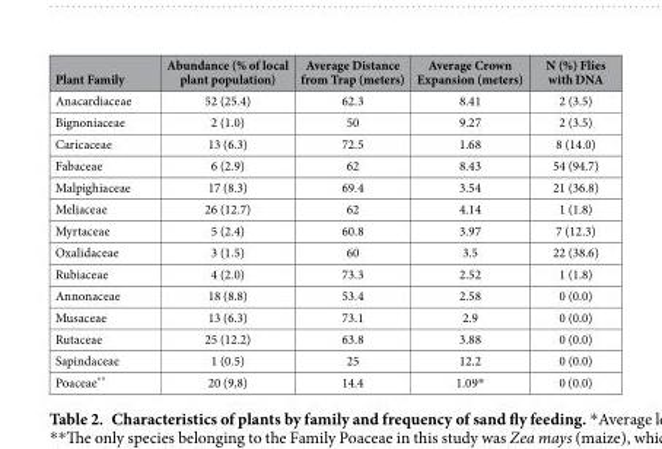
<table><thead><tr><td>Plant Family</td><td>Abundance (% of local plant population)</td><td>Average Distance from Trap (meters)</td><td>Average Crown Expansion (meters)</td><td>N (%) Flies with DNA</td></tr></thead><tbody><tr><td>Anacardiaceae</td><td>52 (25.4)</td><td>62.3</td><td>8.41</td><td>2 (3.5)</td></tr><tr><td>Bignoniaceae</td><td>2 (1.0)</td><td>50</td><td>9.27</td><td>2 (3.5)</td></tr><tr><td>Caricaceae</td><td>13 (6.3)</td><td>72.5</td><td>1.68</td><td>8 (14.0)</td></tr><tr><td>Fabaceae</td><td>6 (2.9)</td><td>62</td><td>8.43</td><td>54 (94.7)</td></tr><tr><td>Malpighiaceae</td><td>17 (8.3)</td><td>69.4</td><td>3.54</td><td>21 (36.8)</td></tr><tr><td>Meliaceae</td><td>26 (12.7)</td><td>62</td><td>4.14</td><td>1 (1.8)</td></tr><tr><td>Myrtaceae</td><td>5 (2.4)</td><td>60.8</td><td>3.97</td><td>7 (12.3)</td></tr><tr><td>Oxalidaceae</td><td>3 (1.5)</td><td>60</td><td>3.5</td><td>22 (38.6)</td></tr><tr><td>Rubiaceae</td><td>4 (2.0)</td><td>73.3</td><td>2.52</td><td>1 (1.8)</td></tr><tr><td>Annonaceae</td><td>18 (8.8)</td><td>53.4</td><td>2.58</td><td>0 (0.0)</td></tr><tr><td>Musaceae</td><td>13 (6.3)</td><td>73.1</td><td>2.9</td><td>0 (0.0)</td></tr><tr><td>Rutaceae</td><td>25 (12.2)</td><td>63.8</td><td>3.88</td><td>0 (0.0)</td></tr><tr><td>Sapindaceae</td><td>1 (0.5)</td><td>25</td><td>12.2</td><td>0 (0.0)</td></tr><tr><td>Poaceae**</td><td>20 (9,8)</td><td>14.4</td><td>1.09*</td><td>0 (0.0)</td></tr></tbody></table>